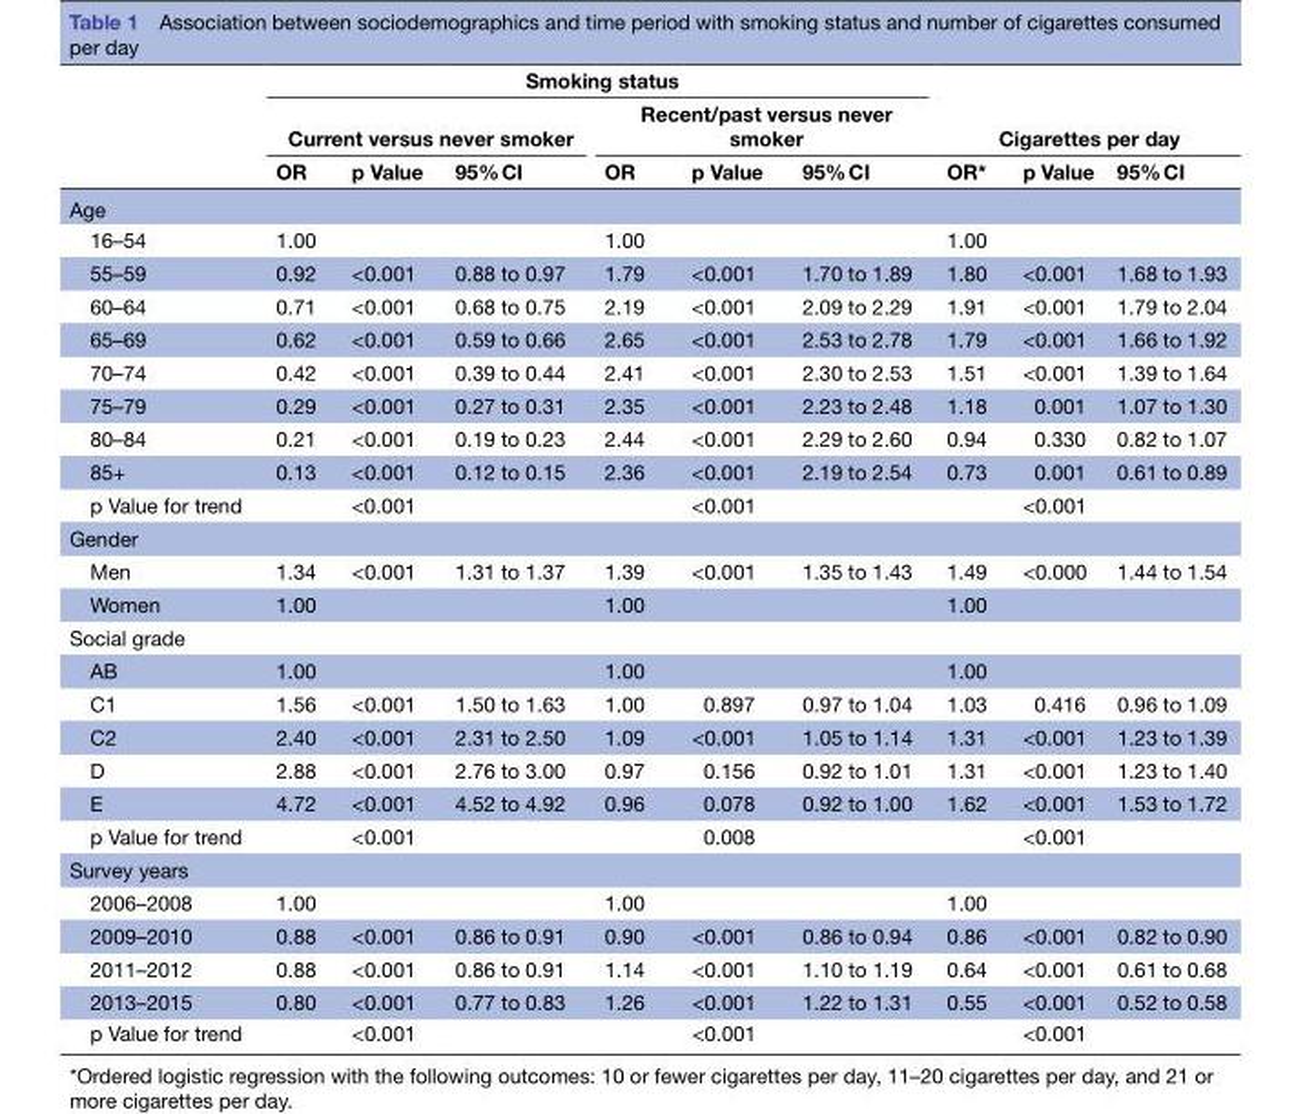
<table><thead><tr><td rowspan="3"></td><td colspan="6">Smoking status</td><td rowspan="2" colspan="3">Cigarettes per day</td></tr><tr><td colspan="3">Current versus never smoker</td><td colspan="3">Recent/past versus never smoker</td></tr><tr><td>OR</td><td>p Value</td><td>95% CI</td><td>OR</td><td>p Value</td><td>95% CI</td><td>OR*</td><td>p Value</td><td>95% CI</td></tr></thead><tbody><tr><td colspan="10">Age</td></tr><tr><td>16–54</td><td>1.00</td><td></td><td></td><td>1.00</td><td></td><td></td><td>1.00</td><td></td><td></td></tr><tr><td>55–59</td><td>0.92</td><td>&lt;0.001</td><td>0.88 to 0.97</td><td>1.79</td><td>&lt;0.001</td><td>1.70 to 1.89</td><td>1.80</td><td>&lt;0.001</td><td>1.68 to 1.93</td></tr><tr><td>60–64</td><td>0.71</td><td>&lt;0.001</td><td>0.68 to 0.75</td><td>2.19</td><td>&lt;0.001</td><td>2.09 to 2.29</td><td>1.91</td><td>&lt;0.001</td><td>1.79 to 2.04</td></tr><tr><td>65–69</td><td>0.62</td><td>&lt;0.001</td><td>0.59 to 0.66</td><td>2.65</td><td>&lt;0.001</td><td>2.53 to 2.78</td><td>1.79</td><td>&lt;0.001</td><td>1.66 to 1.92</td></tr><tr><td>70–74</td><td>0.42</td><td>&lt;0.001</td><td>0.39 to 0.44</td><td>2.41</td><td>&lt;0.001</td><td>2.30 to 2.53</td><td>1.51</td><td>&lt;0.001</td><td>1.39 to 1.64</td></tr><tr><td>75–79</td><td>0.29</td><td>&lt;0.001</td><td>0.27 to 0.31</td><td>2.35</td><td>&lt;0.001</td><td>2.23 to 2.48</td><td>1.18</td><td>0.001</td><td>1.07 to 1.30</td></tr><tr><td>80–84</td><td>0.21</td><td>&lt;0.001</td><td>0.19 to 0.23</td><td>2.44</td><td>&lt;0.001</td><td>2.29 to 2.60</td><td>0.94</td><td>0.330</td><td>0.82 to 1.07</td></tr><tr><td>85+</td><td>0.13</td><td>&lt;0.001</td><td>0.12 to 0.15</td><td>2.36</td><td>&lt;0.001</td><td>2.19 to 2.54</td><td>0.73</td><td>0.001</td><td>0.61 to 0.89</td></tr><tr><td colspan="2">p Value for trend</td><td>&lt;0.001</td><td></td><td></td><td>&lt;0.001</td><td></td><td></td><td>&lt;0.001</td><td></td></tr><tr><td colspan="10">Gender</td></tr><tr><td>Men</td><td>1.34</td><td>&lt;0.001</td><td>1.31 to 1.37</td><td>1.39</td><td>&lt;0.001</td><td>1.35 to 1.43</td><td>1.49</td><td>&lt;0.000</td><td>1.44 to 1.54</td></tr><tr><td>Women</td><td>1.00</td><td></td><td></td><td>1.00</td><td></td><td></td><td>1.00</td><td></td><td></td></tr><tr><td colspan="10">Social grade</td></tr><tr><td>AB</td><td>1.00</td><td></td><td></td><td>1.00</td><td></td><td></td><td>1.00</td><td></td><td></td></tr><tr><td>C1</td><td>1.56</td><td>&lt;0.001</td><td>1.50 to 1.63</td><td>1.00</td><td>0.897</td><td>0.97 to 1.04</td><td>1.03</td><td>0.416</td><td>0.96 to 1.09</td></tr><tr><td>C2</td><td>2.40</td><td>&lt;0.001</td><td>2.31 to 2.50</td><td>1.09</td><td>&lt;0.001</td><td>1.05 to 1.14</td><td>1.31</td><td>&lt;0.001</td><td>1.23 to 1.39</td></tr><tr><td>D</td><td>2.88</td><td>&lt;0.001</td><td>2.76 to 3.00</td><td>0.97</td><td>0.156</td><td>0.92 to 1.01</td><td>1.31</td><td>&lt;0.001</td><td>1.23 to 1.40</td></tr><tr><td>E</td><td>4.72</td><td>&lt;0.001</td><td>4.52 to 4.92</td><td>0.96</td><td>0.078</td><td>0.92 to 1.00</td><td>1.62</td><td>&lt;0.001</td><td>1.53 to 1.72</td></tr><tr><td colspan="2">p Value for trend</td><td>&lt;0.001</td><td></td><td></td><td>0.008</td><td></td><td></td><td>&lt;0.001</td><td></td></tr><tr><td colspan="10">Survey years</td></tr><tr><td>2006–2008</td><td>1.00</td><td></td><td></td><td>1.00</td><td></td><td></td><td>1.00</td><td></td><td></td></tr><tr><td>2009–2010</td><td>0.88</td><td>&lt;0.001</td><td>0.86 to 0.91</td><td>0.90</td><td>&lt;0.001</td><td>0.86 to 0.94</td><td>0.86</td><td>&lt;0.001</td><td>0.82 to 0.90</td></tr><tr><td>2011–2012</td><td>0.88</td><td>&lt;0.001</td><td>0.86 to 0.91</td><td>1.14</td><td>&lt;0.001</td><td>1.10 to 1.19</td><td>0.64</td><td>&lt;0.001</td><td>0.61 to 0.68</td></tr><tr><td>2013–2015</td><td>0.80</td><td>&lt;0.001</td><td>0.77 to 0.83</td><td>1.26</td><td>&lt;0.001</td><td>1.22 to 1.31</td><td>0.55</td><td>&lt;0.001</td><td>0.52 to 0.58</td></tr><tr><td colspan="2">p Value for trend</td><td>&lt;0.001</td><td></td><td></td><td>&lt;0.001</td><td></td><td></td><td>&lt;0.001</td><td></td></tr></tbody></table>